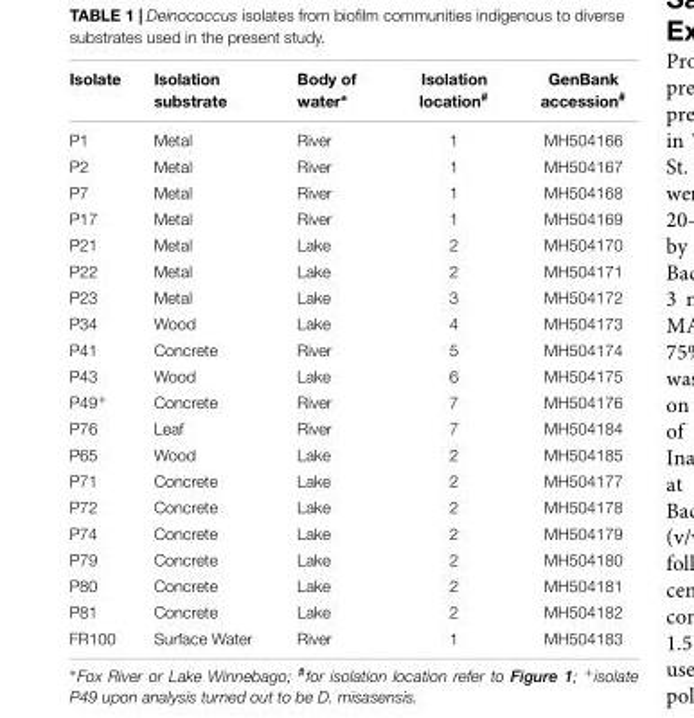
<table><thead><tr><td>Isolate</td><td>Isolation substrate</td><td>Body of water∗</td><td>Isolation location<sup>#</sup></td><td>GenBank accession<sup>#</sup></td></tr></thead><tbody><tr><td>P1</td><td>Metal</td><td>River</td><td>1</td><td>MH504166</td></tr><tr><td>P2</td><td>Metal</td><td>River</td><td>1</td><td>MH504167</td></tr><tr><td>P7</td><td>Metal</td><td>River</td><td>1</td><td>MH504168</td></tr><tr><td>P17</td><td>Metal</td><td>River</td><td>1</td><td>MH504169</td></tr><tr><td>P21</td><td>Metal</td><td>Lake</td><td>2</td><td>MH504170</td></tr><tr><td>P22</td><td>Metal</td><td>Lake</td><td>2</td><td>MH504171</td></tr><tr><td>P23</td><td>Metal</td><td>Lake</td><td>3</td><td>MH504172</td></tr><tr><td>P34</td><td>Wood</td><td>Lake</td><td>4</td><td>MH504173</td></tr><tr><td>P41</td><td>Concrete</td><td>River</td><td>5</td><td>MH504174</td></tr><tr><td>P43</td><td>Wood</td><td>Lake</td><td>6</td><td>MH504175</td></tr><tr><td>P49<sup>+</sup></td><td>Concrete</td><td>River</td><td>7</td><td>MH504176</td></tr><tr><td>P76</td><td>Leaf</td><td>River</td><td>7</td><td>MH504184</td></tr><tr><td>P65</td><td>Wood</td><td>Lake</td><td>2</td><td>MH504185</td></tr><tr><td>P71</td><td>Concrete</td><td>Lake</td><td>2</td><td>MH504177</td></tr><tr><td>P72</td><td>Concrete</td><td>Lake</td><td>2</td><td>MH504178</td></tr><tr><td>P74</td><td>Concrete</td><td>Lake</td><td>2</td><td>MH504179</td></tr><tr><td>P79</td><td>Concrete</td><td>Lake</td><td>2</td><td>MH504180</td></tr><tr><td>P80</td><td>Concrete</td><td>Lake</td><td>2</td><td>MH504181</td></tr><tr><td>P81</td><td>Concrete</td><td>Lake</td><td>2</td><td>MH504182</td></tr><tr><td>FR100</td><td>Surface Water</td><td>River</td><td>1</td><td>MH504183</td></tr></tbody></table>